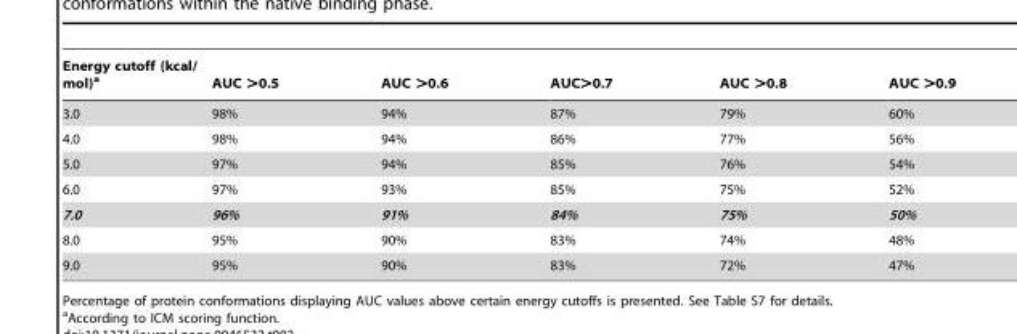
<table><thead><tr><td>Energy cutoff (kcal/ mol)<sup>a</sup></td><td>AUC &gt;0.5</td><td>AUC &gt;0.6</td><td>AUC&gt;0.7</td><td>AUC &gt;0.8</td><td>AUC &gt;0.9</td></tr></thead><tbody><tr><td>3.0</td><td>98%</td><td>94%</td><td>87%</td><td>79%</td><td>60%</td></tr><tr><td>4.0</td><td>98%</td><td>94%</td><td>86%</td><td>77%</td><td>56%</td></tr><tr><td>5.0</td><td>97%</td><td>94%</td><td>85%</td><td>76%</td><td>54%</td></tr><tr><td>6.0</td><td>97%</td><td>93%</td><td>85%</td><td>75%</td><td>52%</td></tr><tr><td>7.0</td><td>96%</td><td>91%</td><td>84%</td><td>75%</td><td>50%</td></tr><tr><td>8.0</td><td>95%</td><td>90%</td><td>83%</td><td>74%</td><td>48%</td></tr><tr><td>9.0</td><td>95%</td><td>90%</td><td>83%</td><td>72%</td><td>47%</td></tr></tbody></table>